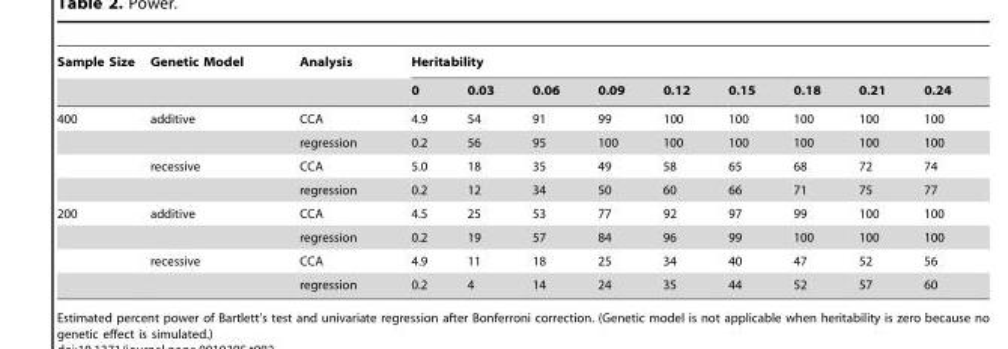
<table><thead><tr><td rowspan="2">Sample Size</td><td rowspan="2">Genetic Model</td><td rowspan="2">Analysis</td><td colspan="9">Heritability</td></tr><tr><td>0</td><td>0.03</td><td>0.06</td><td>0.09</td><td>0.12</td><td>0.15</td><td>0.18</td><td>0.21</td><td>0.24</td></tr></thead><tbody><tr><td rowspan="4">400</td><td>additive</td><td>CCA</td><td>4.9</td><td>54</td><td>91</td><td>99</td><td>100</td><td>100</td><td>100</td><td>100</td><td>100</td></tr><tr><td></td><td>regression</td><td>0.2</td><td>56</td><td>95</td><td>100</td><td>100</td><td>100</td><td>100</td><td>100</td><td>100</td></tr><tr><td>recessive</td><td>CCA</td><td>5.0</td><td>18</td><td>35</td><td>49</td><td>58</td><td>65</td><td>68</td><td>72</td><td>74</td></tr><tr><td></td><td>regression</td><td>0.2</td><td>12</td><td>34</td><td>50</td><td>60</td><td>66</td><td>71</td><td>75</td><td>77</td></tr><tr><td rowspan="4">200</td><td>additive</td><td>CCA</td><td>4.5</td><td>25</td><td>53</td><td>77</td><td>92</td><td>97</td><td>99</td><td>100</td><td>100</td></tr><tr><td></td><td>regression</td><td>0.2</td><td>19</td><td>57</td><td>84</td><td>96</td><td>99</td><td>100</td><td>100</td><td>100</td></tr><tr><td>recessive</td><td>CCA</td><td>4.9</td><td>11</td><td>18</td><td>25</td><td>34</td><td>40</td><td>47</td><td>52</td><td>56</td></tr><tr><td></td><td>regression</td><td>0.2</td><td>4</td><td>14</td><td>24</td><td>35</td><td>44</td><td>52</td><td>57</td><td>60</td></tr></tbody></table>